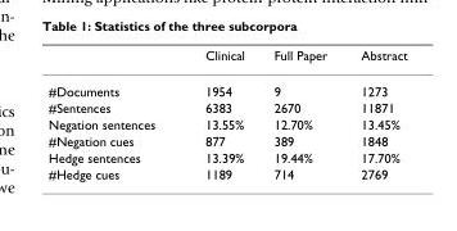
<table><thead><tr><td></td><td>Clinical</td><td>Full Paper</td><td>Abstract</td></tr></thead><tbody><tr><td>#Documents</td><td>1954</td><td>9</td><td>1273</td></tr><tr><td>#Sentences</td><td>6383</td><td>2670</td><td>11871</td></tr><tr><td>Negation sentences</td><td>13.55%</td><td>12.70%</td><td>13.45%</td></tr><tr><td>#Negation cues</td><td>877</td><td>389</td><td>1848</td></tr><tr><td>Hedge sentences</td><td>13.39%</td><td>19.44%</td><td>17.70%</td></tr><tr><td>#Hedge cues</td><td>1189</td><td>714</td><td>2769</td></tr></tbody></table>